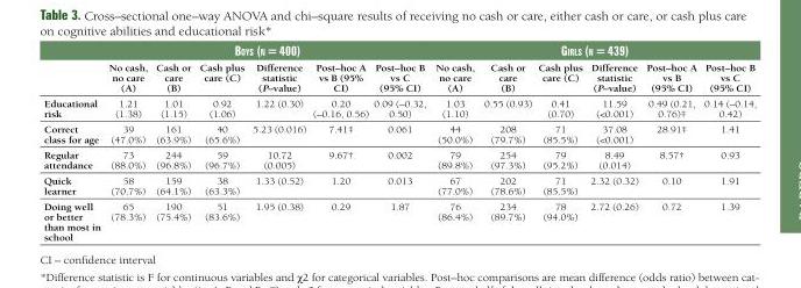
<table><thead><tr><td rowspan="2"></td><td colspan="6">Boys (n = 400)</td><td colspan="6">girls (n = 439)</td></tr><tr><td>No cash, no care (A)</td><td>Cash or care (B)</td><td>Cash plus care (C)</td><td>Difference statistic (P–value)</td><td>Post–hoc A vs B (95% CI)</td><td>Post–hoc B vs C (95% CI)</td><td>No cash, no care (A)</td><td>Cash or care (B)</td><td>Cash plus care (C)</td><td>Difference statistic (P–value)</td><td>Post–hoc A vs B (95% CI)</td><td>Post–hoc B vs C (95% CI)</td></tr></thead><tbody><tr><td>Educational risk</td><td>1.21 (1.38)</td><td>1.01 (1.15)</td><td>0.92 (1.06)</td><td>1.22 (0.30)</td><td>0.20 (–0.16, 0.56)</td><td>0.09 (–0.32, 0.50)</td><td>1.03 (1.10)</td><td>0.55 (0.93)</td><td>0.41 (0.70)</td><td>11.59 (&lt;0.001)</td><td>0.49 (0.21, 0.76)‡</td><td>0.14 (–0.14, 0.42)</td></tr><tr><td>Correct class for age</td><td>39 (47.0%)</td><td>161 (63.9%)</td><td>40 (65.6%)</td><td>5.23 (0.016)</td><td>7.41‡</td><td>0.061</td><td>44 (50.0%)</td><td>208 (79.7%)</td><td>71 (85.5%)</td><td>37.08 (&lt;0.001)</td><td>28.91‡</td><td>1.41</td></tr><tr><td>Regular attendance</td><td>73 (88.0%)</td><td>244 (96.8%)</td><td>59 (96.7%)</td><td>10.72 (0.005)</td><td>9.67†</td><td>0.002</td><td>79 (89.8%)</td><td>254 (97.3%)</td><td>79 (95.2%)</td><td>8.49 (0.014)</td><td>8.57†</td><td>0.93</td></tr><tr><td>Quick learner</td><td>58 (70.7%)</td><td>159 (64.1%)</td><td>38 (63.3%)</td><td>1.33 (0.52)</td><td>1.20</td><td>0.013</td><td>67 (77.0%)</td><td>202 (78.6%)</td><td>71 (85.5%)</td><td>2.32 (0.32)</td><td>0.10</td><td>1.91</td></tr><tr><td>Doing well or better than most in school</td><td>65 (78.3%)</td><td>190 (75.4%)</td><td>51 (83.6%)</td><td>1.95 (0.38)</td><td>0.29</td><td>1.87</td><td>76 (86.4%)</td><td>234 (89.7%)</td><td>78 (94.0%)</td><td>2.72 (0.26)</td><td>0.72</td><td>1.39</td></tr></tbody></table>